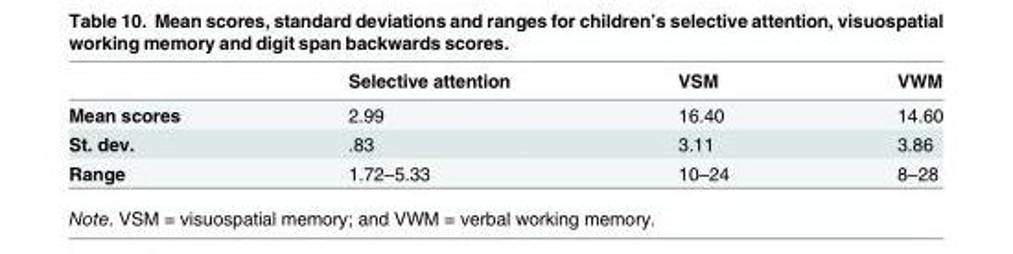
<table><thead><tr><td></td><td>Selective attention</td><td>VSM</td><td>VWM</td></tr></thead><tbody><tr><td>Mean scores</td><td>2.99</td><td>16.40</td><td>14.60</td></tr><tr><td>St. dev.</td><td>.83</td><td>3.11</td><td>3.86</td></tr><tr><td>Range</td><td>1.72–5.33</td><td>10–24</td><td>8–28</td></tr></tbody></table>